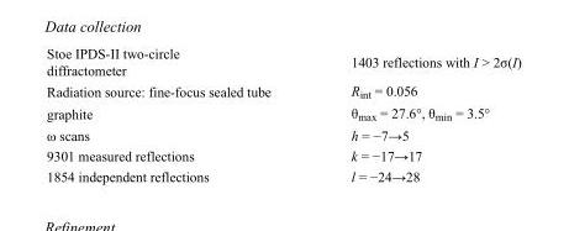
<table><tbody><tr><td>Stoe IPDS-II two-circle diffractometer</td><td>1403 reflections with I &gt; 2σ(I)</td></tr><tr><td>Radiation source: fine-focus sealed tube</td><td>R<sub>int</sub> = 0.056</td></tr><tr><td>graphite</td><td>θ<sub>max</sub> = 27.6°, θ<sub>min</sub> = 3.5°</td></tr><tr><td>ω scans</td><td>h = −7→5</td></tr><tr><td>9301 measured reflections</td><td>k = −17→17</td></tr><tr><td>1854 independent reflections</td><td>l = −24→28</td></tr></tbody></table>